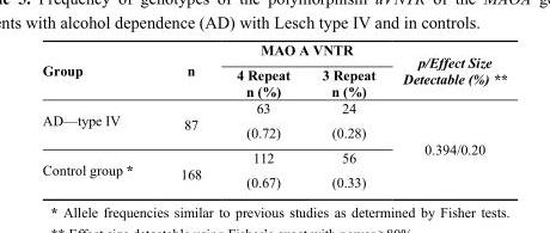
<table><thead><tr><td rowspan="2">Group</td><td rowspan="2">n</td><td colspan="2">MAO A VNTR</td><td rowspan="2">p/Effect Size Detectable (%) **</td></tr><tr><td>4 Repeat n (%)</td><td>3 Repeat n (%)</td></tr></thead><tbody><tr><td>AD—type IV</td><td>87</td><td>63 (0.72)</td><td>24 (0.28)</td><td rowspan="2">0.394/0.20</td></tr><tr><td>Control group *</td><td>168</td><td>112 (0.67)</td><td>56 (0.33)</td></tr></tbody></table>